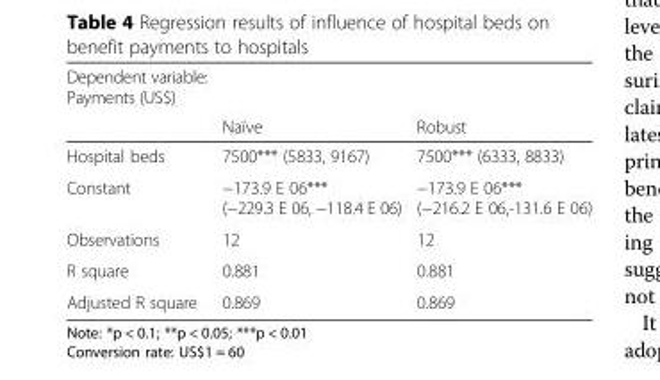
<table><thead><tr><td rowspan="2">Dependent variable: Payments (US$)</td><td rowspan="2">Naïve</td><td rowspan="2">Robust</td></tr><tr></tr></thead><tbody><tr><td>Hospital beds</td><td>7500*** (5833, 9167)</td><td>7500*** (6333, 8833)</td></tr><tr><td>Constant</td><td>−173.9 E 06*** (−229.3 E 06, −118.4 E 06)</td><td>−173.9 E 06*** (−216.2 E 06,-131.6 E 06)</td></tr><tr><td>Observations</td><td>12</td><td>12</td></tr><tr><td>R square</td><td>0.881</td><td>0.881</td></tr><tr><td>Adjusted R square</td><td>0.869</td><td>0.869</td></tr></tbody></table>